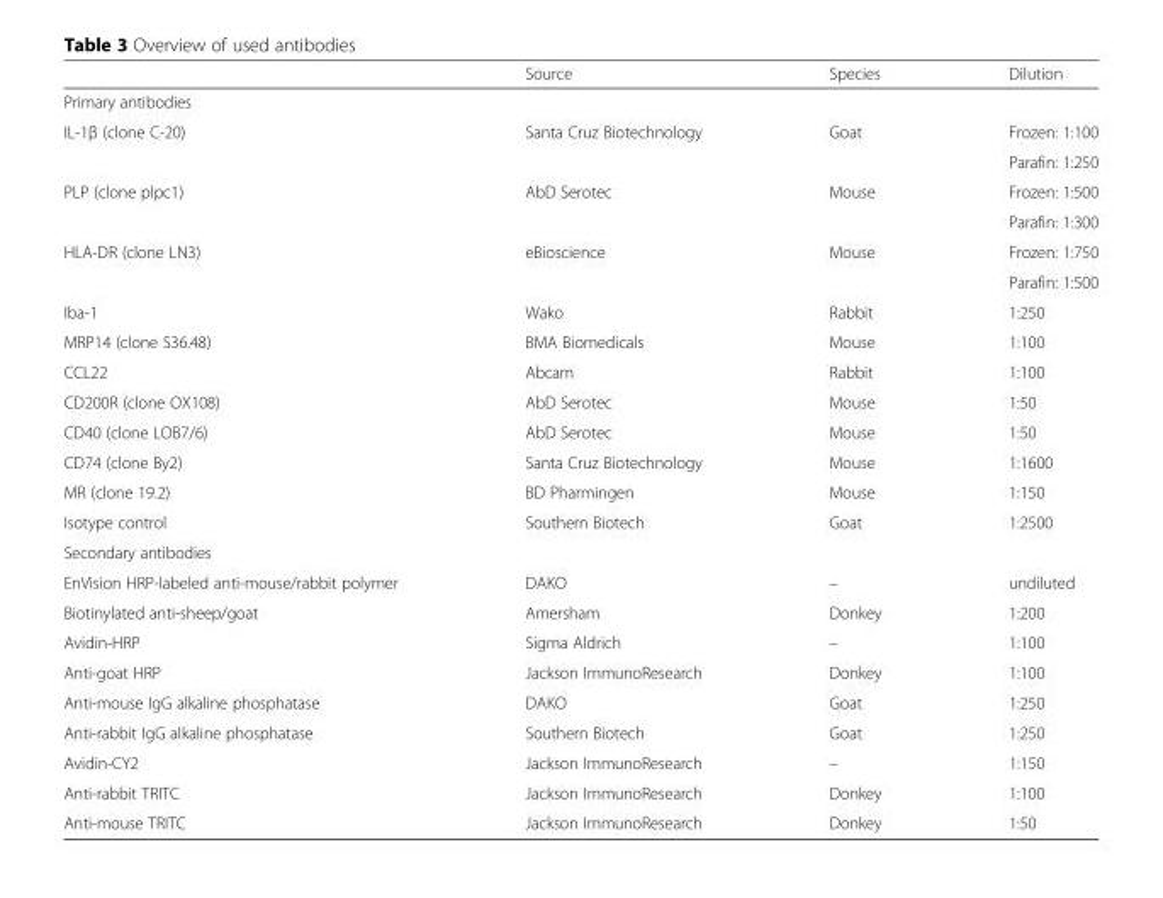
<table><thead><tr><td></td><td>Source</td><td>Species</td><td>Dilution</td></tr></thead><tbody><tr><td colspan="4">Primary antibodies</td></tr><tr><td rowspan="2">IL-1β (clone C-20)</td><td rowspan="2">Santa Cruz Biotechnology</td><td rowspan="2">Goat</td><td>Frozen: 1:100</td></tr><tr><td>Parafin: 1:250</td></tr><tr><td rowspan="2">PLP (clone plpc1)</td><td rowspan="2">AbD Serotec</td><td rowspan="2">Mouse</td><td>Frozen: 1:500</td></tr><tr><td>Parafin: 1:300</td></tr><tr><td rowspan="2">HLA-DR (clone LN3)</td><td rowspan="2">eBioscience</td><td rowspan="2">Mouse</td><td>Frozen: 1:750</td></tr><tr><td>Parafin: 1:500</td></tr><tr><td>Iba-1</td><td>Wako</td><td>Rabbit</td><td>1:250</td></tr><tr><td>MRP14 (clone S36.48)</td><td>BMA Biomedicals</td><td>Mouse</td><td>1:100</td></tr><tr><td>CCL22</td><td>Abcam</td><td>Rabbit</td><td>1:100</td></tr><tr><td>CD200R (clone OX108)</td><td>AbD Serotec</td><td>Mouse</td><td>1:50</td></tr><tr><td>CD40 (clone LOB7/6)</td><td>AbD Serotec</td><td>Mouse</td><td>1:50</td></tr><tr><td>CD74 (clone By2)</td><td>Santa Cruz Biotechnology</td><td>Mouse</td><td>1:1600</td></tr><tr><td>MR (clone 19.2)</td><td>BD Pharmingen</td><td>Mouse</td><td>1:150</td></tr><tr><td>Isotype control</td><td>Southern Biotech</td><td>Goat</td><td>1:2500</td></tr><tr><td colspan="4">Secondary antibodies</td></tr><tr><td>EnVision HRP-labeled anti-mouse/rabbit polymer</td><td>DAKO</td><td>–</td><td>undiluted</td></tr><tr><td>Biotinylated anti-sheep/goat</td><td>Amersham</td><td>Donkey</td><td>1:200</td></tr><tr><td>Avidin-HRP</td><td>Sigma Aldrich</td><td>–</td><td>1:100</td></tr><tr><td>Anti-goat HRP</td><td>Jackson ImmunoResearch</td><td>Donkey</td><td>1:100</td></tr><tr><td>Anti-mouse IgG alkaline phosphatase</td><td>DAKO</td><td>Goat</td><td>1:250</td></tr><tr><td>Anti-rabbit IgG alkaline phosphatase</td><td>Southern Biotech</td><td>Goat</td><td>1:250</td></tr><tr><td>Avidin-CY2</td><td>Jackson ImmunoResearch</td><td>–</td><td>1:150</td></tr><tr><td>Anti-rabbit TRITC</td><td>Jackson ImmunoResearch</td><td>Donkey</td><td>1:100</td></tr><tr><td>Anti-mouse TRITC</td><td>Jackson ImmunoResearch</td><td>Donkey</td><td>1:50</td></tr></tbody></table>